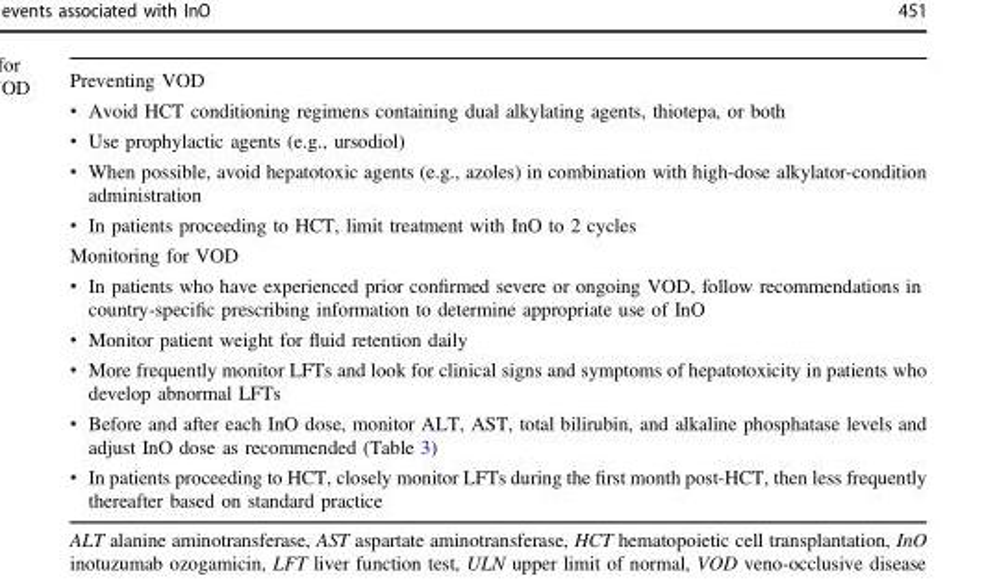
<table><tbody><tr><td colspan="2">Preventing VOD</td></tr><tr><td>•</td><td>Avoid HCT conditioning regimens containing dual alkylating agents, thiotepa, or both</td></tr><tr><td>•</td><td>Use prophylactic agents (e.g., ursodiol)</td></tr><tr><td>•</td><td>When possible, avoid hepatotoxic agents (e.g., azoles) in combination with high-dose alkylator-condition administration</td></tr><tr><td>•</td><td>In patients proceeding to HCT, limit treatment with InO to 2 cycles</td></tr><tr><td colspan="2">Monitoring for VOD</td></tr><tr><td>•</td><td>In patients who have experienced prior confirmed severe or ongoing VOD, follow recommendations in country-specific prescribing information to determine appropriate use of InO</td></tr><tr><td>•</td><td>Monitor patient weight for fluid retention daily</td></tr><tr><td>•</td><td>More frequently monitor LFTs and look for clinical signs and symptoms of hepatotoxicity in patients who develop abnormal LFTs</td></tr><tr><td>•</td><td>Before and after each InO dose, monitor ALT, AST, total bilirubin, and alkaline phosphatase levels and adjust InO dose as recommended (Table 3)</td></tr><tr><td>•</td><td>In patients proceeding to HCT, closely monitor LFTs during the first month post-HCT, then less frequently thereafter based on standard practice</td></tr></tbody></table>